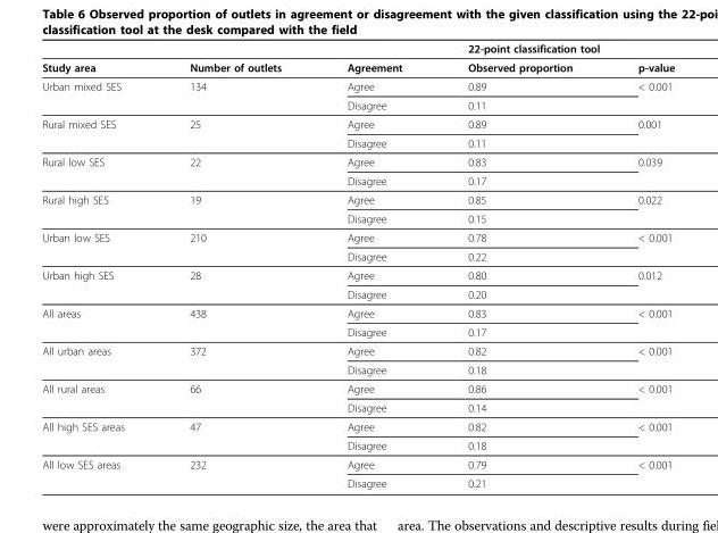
<table><thead><tr><td rowspan="2">Study area</td><td rowspan="2">Number of outlets</td><td rowspan="2">Agreement</td><td colspan="2">22-point classification tool</td></tr><tr><td>Observed proportion</td><td>p-value</td></tr></thead><tbody><tr><td rowspan="2">Urban mixed SES</td><td>134</td><td>Agree</td><td>0.89</td><td>&lt; 0.001</td></tr><tr><td></td><td>Disagree</td><td>0.11</td><td></td></tr><tr><td rowspan="2">Rural mixed SES</td><td>25</td><td>Agree</td><td>0.89</td><td>0.001</td></tr><tr><td></td><td>Disagree</td><td>0.11</td><td></td></tr><tr><td rowspan="2">Rural low SES</td><td>22</td><td>Agree</td><td>0.83</td><td>0.039</td></tr><tr><td></td><td>Disagree</td><td>0.17</td><td></td></tr><tr><td rowspan="2">Rural high SES</td><td>19</td><td>Agree</td><td>0.85</td><td>0.022</td></tr><tr><td></td><td>Disagree</td><td>0.15</td><td></td></tr><tr><td rowspan="2">Urban low SES</td><td>210</td><td>Agree</td><td>0.78</td><td>&lt; 0.001</td></tr><tr><td></td><td>Disagree</td><td>0.22</td><td></td></tr><tr><td rowspan="2">Urban high SES</td><td>28</td><td>Agree</td><td>0.80</td><td>0.012</td></tr><tr><td></td><td>Disagree</td><td>0.20</td><td></td></tr><tr><td rowspan="2">All areas</td><td>438</td><td>Agree</td><td>0.83</td><td>&lt; 0.001</td></tr><tr><td></td><td>Disagree</td><td>0.17</td><td></td></tr><tr><td rowspan="2">All urban areas</td><td>372</td><td>Agree</td><td>0.82</td><td>&lt; 0.001</td></tr><tr><td></td><td>Disagree</td><td>0.18</td><td></td></tr><tr><td rowspan="2">All rural areas</td><td>66</td><td>Agree</td><td>0.86</td><td>&lt; 0.001</td></tr><tr><td></td><td>Disagree</td><td>0.14</td><td></td></tr><tr><td rowspan="2">All high SES areas</td><td>47</td><td>Agree</td><td>0.82</td><td>&lt; 0.001</td></tr><tr><td></td><td>Disagree</td><td>0.18</td><td></td></tr><tr><td rowspan="2">All low SES areas</td><td>232</td><td>Agree</td><td>0.79</td><td>&lt; 0.001</td></tr><tr><td></td><td>Disagree</td><td>0.21</td><td></td></tr></tbody></table>